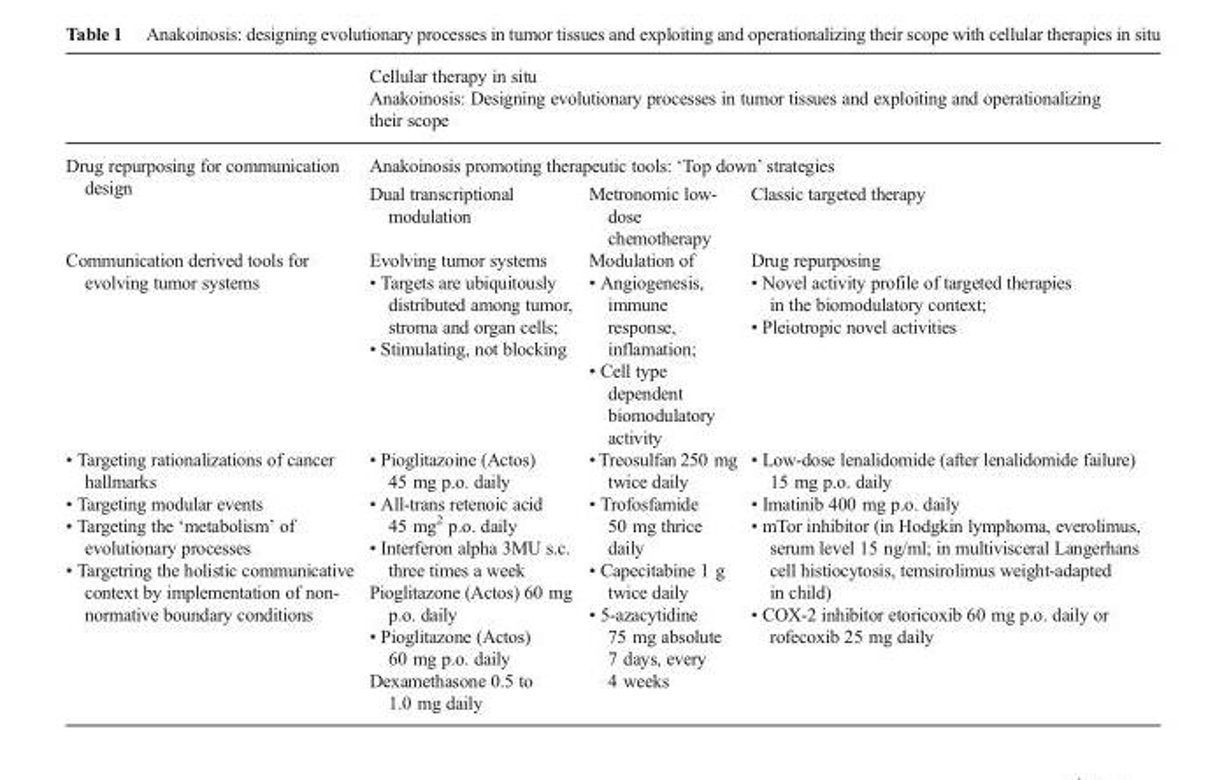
<table><thead><tr><td rowspan="3">Drug repurposing for communication design</td><td rowspan="2" colspan="3">Cellular therapy in situ Anakoinosis: Designing evolutionary processes in tumor tissues and exploiting and operationalizing their scope Anakoinosis promoting therapeutic tools: ‘Top down’ strategies</td></tr><tr></tr><tr><td>Dual transcriptional modulation</td><td>Metronomic low- dose chemotherapy</td><td>Classic targeted therapy</td></tr></thead><tbody><tr><td>Communication derived tools for evolving tumor systems</td><td>Evolving tumor systems • Targets are ubiquitously distributed among tumor, stroma and organ cells; • Stimulating, not blocking</td><td>Modulation of • Angiogenesis, immune response, inflamation; • Cell type dependent biomodulatory activity</td><td>Drug repurposing • Novel activity profile of targeted therapies in the biomodulatory context; • Pleiotropic novel activities</td></tr><tr><td>• Targeting rationalizations of cancer hallmarks • Targeting modular events • Targeting the ‘metabolism’ of evolutionary processes • Targetring the holistic communicative context by implementation of non- normative boundary conditions</td><td>• Pioglitazoine (Actos) 45 mg p.o. daily • All-trans retenoic acid 45 mg<sup>2</sup> p.o. daily • Interferon alpha 3MU s.c. three times a week Pioglitazone (Actos) 60 mg p.o. daily • Pioglitazone (Actos) 60 mg p.o. daily Dexamethasone 0.5 to 1.0 mg daily</td><td>• Treosulfan 250 mg twice daily • Trofosfamide 50 mg thrice daily • Capecitabine 1 g twice daily • 5-azacytidine 75 mg absolute 7 days, every 4 weeks</td><td>• Low-dose lenalidomide (after lenalidomide failure) 15 mg p.o. daily • Imatinib 400 mg p.o. daily • mTor inhibitor (in Hodgkin lymphoma, everolimus, serum level 15 ng/ml; in multivisceral Langerhans cell histiocytosis, temsirolimus weight-adapted in child) • COX-2 inhibitor etoricoxib 60 mg p.o. daily or rofecoxib 25 mg daily</td></tr></tbody></table>